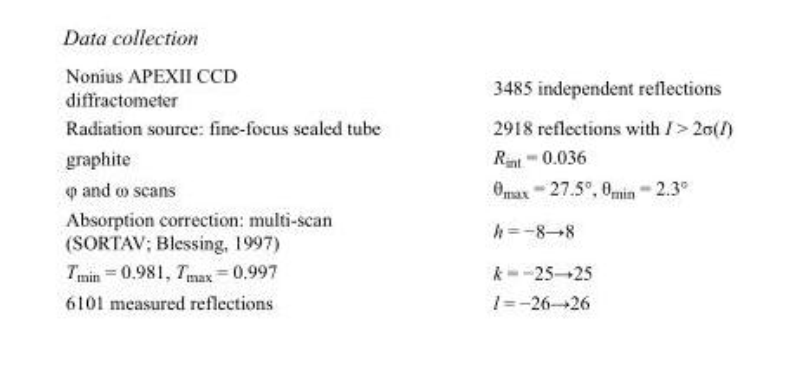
<table><tbody><tr><td>Nonius APEXII CCD diffractometer</td><td>3485 independent reflections</td></tr><tr><td>Radiation source: fine-focus sealed tube</td><td>2918 reflections with I &gt; 2σ(I)</td></tr><tr><td>graphite</td><td>R<sub>int</sub> = 0.036</td></tr><tr><td>φ and ω scans</td><td>θ<sub>max</sub> = 27.5°, θ<sub>min</sub> = 2.3°</td></tr><tr><td>Absorption correction: multi-scan (SORTAV; Blessing, 1997)</td><td>h = −8→8</td></tr><tr><td>T<sub>min</sub> = 0.981, T<sub>max</sub> = 0.997</td><td>k = −25→25</td></tr><tr><td>6101 measured reflections</td><td>l = −26→26</td></tr></tbody></table>